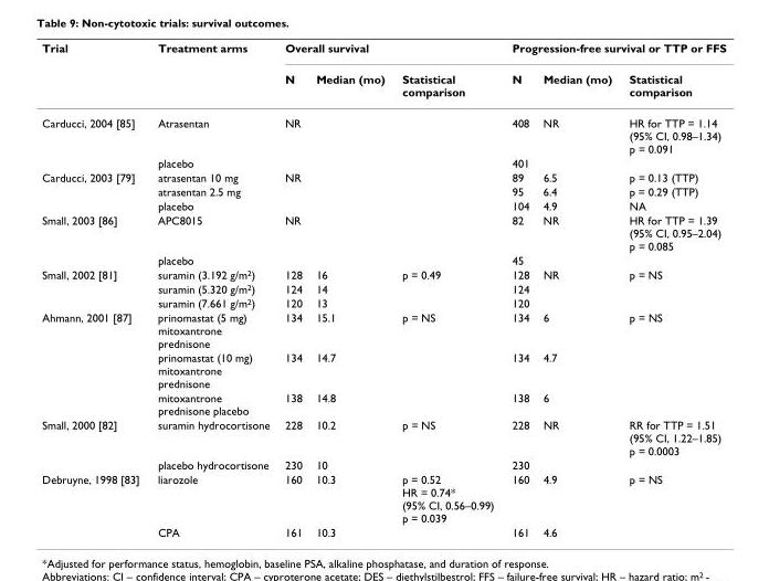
<table><thead><tr><td rowspan="2">Trial</td><td rowspan="2">Treatment arms</td><td colspan="3">Overall survival</td><td colspan="3">Progression-free survival or TTP or FFS</td></tr><tr><td>N</td><td>Median (mo)</td><td>Statistical comparison</td><td>N</td><td>Median (mo)</td><td>Statistical comparison</td></tr></thead><tbody><tr><td rowspan="2">Carducci, 2004 [85]</td><td>Atrasentan</td><td colspan="3">NR</td><td>408</td><td>NR</td><td>HR for TTP = 1.14 (95% CI, 0.98–1.34) p = 0.091</td></tr><tr><td>placebo</td><td></td><td></td><td></td><td>401</td><td></td><td></td></tr><tr><td rowspan="3">Carducci, 2003 [79]</td><td>atrasentan 10 mg</td><td colspan="3">NR</td><td>89</td><td>6.5</td><td>p = 0.13 (TTP)</td></tr><tr><td>atrasentan 2.5 mg</td><td></td><td></td><td></td><td>95</td><td>6.4</td><td>p = 0.29 (TTP)</td></tr><tr><td>placebo</td><td></td><td></td><td></td><td>104</td><td>4.9</td><td>NA</td></tr><tr><td rowspan="2">Small, 2003 [86]</td><td>APC8015</td><td colspan="3">NR</td><td>82</td><td>NR</td><td>HR for TTP = 1.39 (95% CI, 0.95–2.04) p = 0.085</td></tr><tr><td>placebo</td><td></td><td></td><td></td><td>45</td><td></td><td></td></tr><tr><td rowspan="3">Small, 2002 [81]</td><td>suramin (3.192 g/m2)</td><td>128</td><td>16</td><td>p = 0.49</td><td>128</td><td>NR</td><td>p = NS</td></tr><tr><td>suramin (5.320 g/m2)</td><td>124</td><td>14</td><td></td><td>124</td><td></td><td></td></tr><tr><td>suramin (7.661 g/m2)</td><td>120</td><td>13</td><td></td><td>120</td><td></td><td></td></tr><tr><td rowspan="3">Ahmann, 2001 [87]</td><td>prinomastat (5 mg) mitoxantrone prednisone</td><td>134</td><td>15.1</td><td>p = NS</td><td>134</td><td>6</td><td>p = NS</td></tr><tr><td>prinomastat (10 mg) mitoxantrone prednisone</td><td>134</td><td>14.7</td><td></td><td>134</td><td>4.7</td><td></td></tr><tr><td>mitoxantrone prednisone placebo</td><td>138</td><td>14.8</td><td></td><td>138</td><td>6</td><td></td></tr><tr><td rowspan="2">Small, 2000 [82]</td><td>suramin hydrocortisone</td><td>228</td><td>10.2</td><td>p = NS</td><td>228</td><td>NR</td><td>RR for TTP = 1.51 (95% CI, 1.22–1.85) p = 0.0003</td></tr><tr><td>placebo hydrocortisone</td><td>230</td><td>10</td><td></td><td>230</td><td></td><td></td></tr><tr><td rowspan="2">Debruyne, 1998 [83]</td><td>liarozole</td><td>160</td><td>10.3</td><td>p = 0.52 HR = 0.74* (95% CI, 0.56–0.99) p = 0.039</td><td>160</td><td>4.9</td><td>p = NS</td></tr><tr><td>CPA</td><td>161</td><td>10.3</td><td></td><td>161</td><td>4.6</td><td></td></tr></tbody></table>